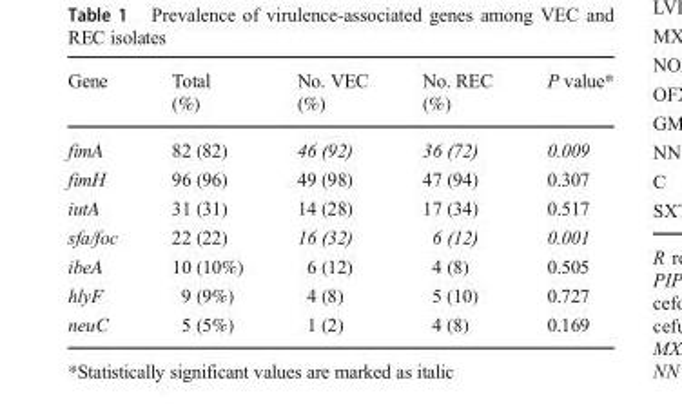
<table><thead><tr><td>Gene</td><td>Total (%)</td><td>No. VEC (%)</td><td>No. REC (%)</td><td>P value*</td></tr></thead><tbody><tr><td>fimA</td><td>82 (82)</td><td>46 (92)</td><td>36 (72)</td><td>0.009</td></tr><tr><td>fimH</td><td>96 (96)</td><td>49 (98)</td><td>47 (94)</td><td>0.307</td></tr><tr><td>iutA</td><td>31 (31)</td><td>14 (28)</td><td>17 (34)</td><td>0.517</td></tr><tr><td>sfa/foc</td><td>22 (22)</td><td>16 (32)</td><td>6 (12)</td><td>0.001</td></tr><tr><td>ibeA</td><td>10 (10%)</td><td>6 (12)</td><td>4 (8)</td><td>0.505</td></tr><tr><td>hlyF</td><td>9 (9%)</td><td>4 (8)</td><td>5 (10)</td><td>0.727</td></tr><tr><td>neuC</td><td>5 (5%)</td><td>1 (2)</td><td>4 (8)</td><td>0.169</td></tr></tbody></table>